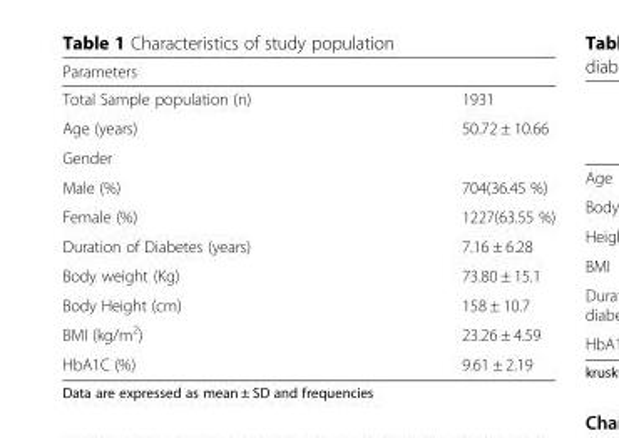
<table><thead><tr><td>Parameters</td><td></td></tr></thead><tbody><tr><td>Total Sample population (n)</td><td>1931</td></tr><tr><td>Age (years)</td><td>50.72 ± 10.66</td></tr><tr><td colspan="2">Gender</td></tr><tr><td>Male (%)</td><td>704(36.45 %)</td></tr><tr><td>Female (%)</td><td>1227(63.55 %)</td></tr><tr><td>Duration of Diabetes (years)</td><td>7.16 ± 6.28</td></tr><tr><td>Body weight (Kg)</td><td>73.80 ± 15.1</td></tr><tr><td>Body Height (cm)</td><td>158 ± 10.7</td></tr><tr><td>BMI (kg/m<sup>2</sup>)</td><td>23.26 ± 4.59</td></tr><tr><td>HbA1C (%)</td><td>9.61 ± 2.19</td></tr></tbody></table>